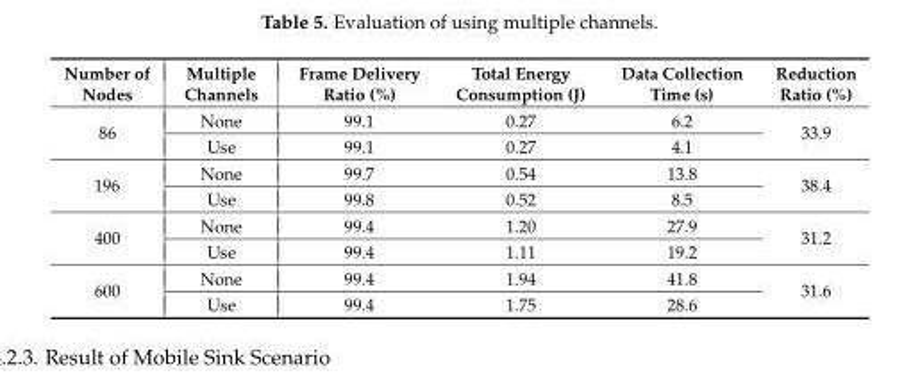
<table><thead><tr><td>Number of Nodes</td><td>Multiple Channels</td><td>Frame Delivery Ratio (%)</td><td>Total Energy Consumption (J)</td><td>Data Collection Time (s)</td><td>Reduction Ratio (%)</td></tr></thead><tbody><tr><td rowspan="2">86</td><td>None</td><td>99.1</td><td>0.27</td><td>6.2</td><td rowspan="2">33.9</td></tr><tr><td>Use</td><td>99.1</td><td>0.27</td><td>4.1</td></tr><tr><td rowspan="2">196</td><td>None</td><td>99.7</td><td>0.54</td><td>13.8</td><td rowspan="2">38.4</td></tr><tr><td>Use</td><td>99.8</td><td>0.52</td><td>8.5</td></tr><tr><td rowspan="2">400</td><td>None</td><td>99.4</td><td>1.20</td><td>27.9</td><td rowspan="2">31.2</td></tr><tr><td>Use</td><td>99.4</td><td>1.11</td><td>19.2</td></tr><tr><td rowspan="2">600</td><td>None</td><td>99.4</td><td>1.94</td><td>41.8</td><td rowspan="2">31.6</td></tr><tr><td>Use</td><td>99.4</td><td>1.75</td><td>28.6</td></tr></tbody></table>